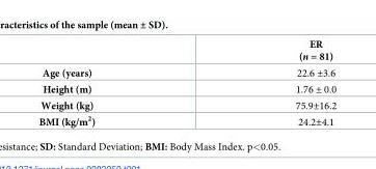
<table><thead><tr><td></td><td>ER (n = 81)</td></tr></thead><tbody><tr><td>Age (years)</td><td>22.6 ±3.6</td></tr><tr><td>Height (m)</td><td>1.76 ± 0.0</td></tr><tr><td>Weight (kg)</td><td>75.9±16.2</td></tr><tr><td>BMI (kg/m<sup>2</sup>)</td><td>24.2±4.1</td></tr></tbody></table>